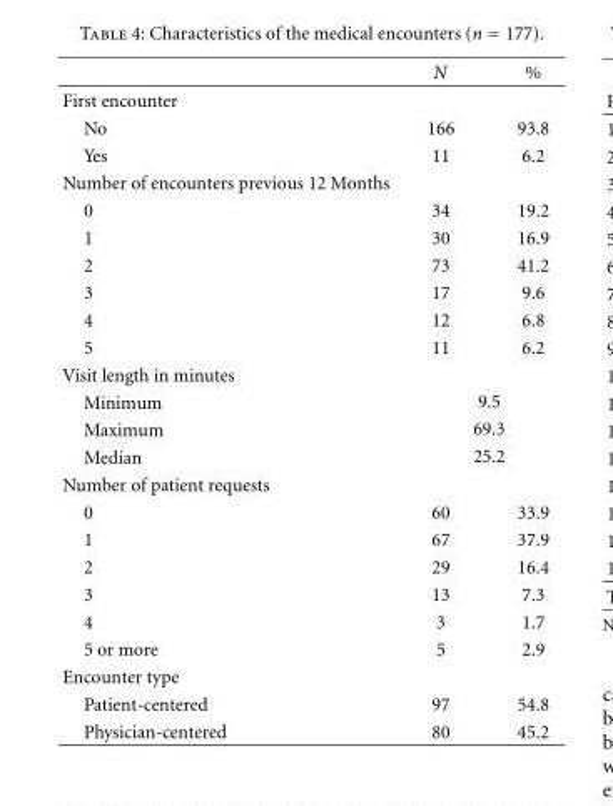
<table><thead><tr><td></td><td>N</td><td>%</td></tr></thead><tbody><tr><td colspan="3">First encounter</td></tr><tr><td>No</td><td>166</td><td>93.8</td></tr><tr><td>Yes</td><td>11</td><td>6.2</td></tr><tr><td colspan="3">Number of encounters previous 12 Months</td></tr><tr><td>0</td><td>34</td><td>19.2</td></tr><tr><td>1</td><td>30</td><td>16.9</td></tr><tr><td>2</td><td>73</td><td>41.2</td></tr><tr><td>3</td><td>17</td><td>9.6</td></tr><tr><td>4</td><td>12</td><td>6.8</td></tr><tr><td>5</td><td>11</td><td>6.2</td></tr><tr><td colspan="3">Visit length in minutes</td></tr><tr><td>Minimum</td><td colspan="2">9.5</td></tr><tr><td>Maximum</td><td colspan="2">69.3</td></tr><tr><td>Median</td><td colspan="2">25.2</td></tr><tr><td colspan="3">Number of patient requests</td></tr><tr><td>0</td><td>60</td><td>33.9</td></tr><tr><td>1</td><td>67</td><td>37.9</td></tr><tr><td>2</td><td>29</td><td>16.4</td></tr><tr><td>3</td><td>13</td><td>7.3</td></tr><tr><td>4</td><td>3</td><td>1.7</td></tr><tr><td>5 or more</td><td>5</td><td>2.9</td></tr><tr><td colspan="3">Encounter type</td></tr><tr><td>Patient-centered</td><td>97</td><td>54.8</td></tr><tr><td>Physician-centered</td><td>80</td><td>45.2</td></tr></tbody></table>